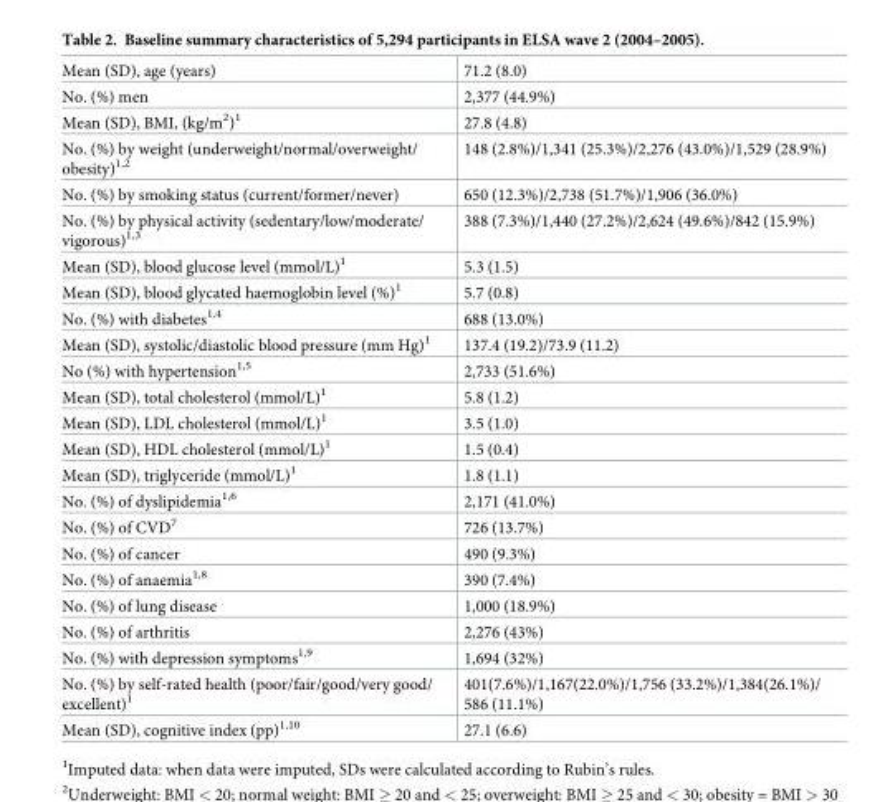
<table><tbody><tr><td>Mean (SD), age (years)</td><td>71.2 (8.0)</td></tr><tr><td>No. (%) men</td><td>2,377 (44.9%)</td></tr><tr><td>Mean (SD), BMI, (kg/m<sup>2</sup>)<sup>1</sup></td><td>27.8 (4.8)</td></tr><tr><td>No. (%) by weight (underweight/normal/overweight/ obesity)<sup>1,2</sup></td><td>148 (2.8%)/1,341 (25.3%)/2,276 (43.0%)/1,529 (28.9%)</td></tr><tr><td>No. (%) by smoking status (current/former/never)</td><td>650 (12.3%)/2,738 (51.7%)/1,906 (36.0%)</td></tr><tr><td>No. (%) by physical activity (sedentary/low/moderate/ vigorous)<sup>1,3</sup></td><td>388 (7.3%)/1,440 (27.2%)/2,624 (49.6%)/842 (15.9%)</td></tr><tr><td>Mean (SD), blood glucose level (mmol/L)<sup>1</sup></td><td>5.3 (1.5)</td></tr><tr><td>Mean (SD), blood glycated haemoglobin level (%)<sup>1</sup></td><td>5.7 (0.8)</td></tr><tr><td>No. (%) with diabetes<sup>1,4</sup></td><td>688 (13.0%)</td></tr><tr><td>Mean (SD), systolic/diastolic blood pressure (mm Hg)<sup>1</sup></td><td>137.4 (19.2)/73.9 (11.2)</td></tr><tr><td>No (%) with hypertension<sup>1,5</sup></td><td>2,733 (51.6%)</td></tr><tr><td>Mean (SD), total cholesterol (mmol/L)<sup>1</sup></td><td>5.8 (1.2)</td></tr><tr><td>Mean (SD), LDL cholesterol (mmol/L)<sup>1</sup></td><td>3.5 (1.0)</td></tr><tr><td>Mean (SD), HDL cholesterol (mmol/L)<sup>1</sup></td><td>1.5 (0.4)</td></tr><tr><td>Mean (SD), triglyceride (mmol/L)<sup>1</sup></td><td>1.8 (1.1)</td></tr><tr><td>No. (%) of dyslipidemia<sup>1,6</sup></td><td>2,171 (41.0%)</td></tr><tr><td>No. (%) of CVD<sup>7</sup></td><td>726 (13.7%)</td></tr><tr><td>No. (%) of cancer</td><td>490 (9.3%)</td></tr><tr><td>No. (%) of anaemia<sup>1,8</sup></td><td>390 (7.4%)</td></tr><tr><td>No. (%) of lung disease</td><td>1,000 (18.9%)</td></tr><tr><td>No. (%) of arthritis</td><td>2,276 (43%)</td></tr><tr><td>No. (%) with depression symptoms<sup>1,9</sup></td><td>1,694 (32%)</td></tr><tr><td>No. (%) by self-rated health (poor/fair/good/very good/ excellent)<sup>1</sup></td><td>401(7.6%)/1,167(22.0%)/1,756 (33.2%)/1,384(26.1%)/ 586 (11.1%)</td></tr><tr><td>Mean (SD), cognitive index (pp)<sup>1,10</sup></td><td>27.1 (6.6)</td></tr></tbody></table>